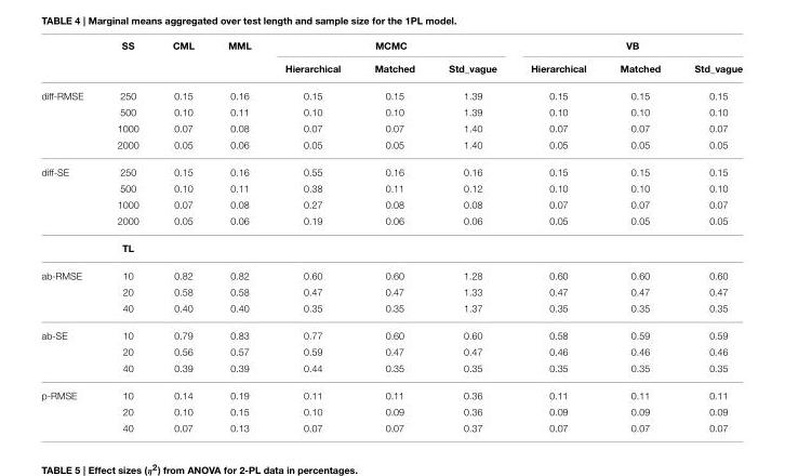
<table><thead><tr><td rowspan="2"></td><td rowspan="2">SS</td><td rowspan="2">CML</td><td rowspan="2">MML</td><td colspan="3">MCMC</td><td colspan="3">VB</td></tr><tr><td>Hierarchical</td><td>Matched</td><td>Std_vague</td><td>Hierarchical</td><td>Matched</td><td>Std_vague</td></tr></thead><tbody><tr><td rowspan="4">diff-RMSE</td><td>250</td><td>0.15</td><td>0.16</td><td>0.15</td><td>0.15</td><td>1.39</td><td>0.15</td><td>0.15</td><td>0.15</td></tr><tr><td>500</td><td>0.10</td><td>0.11</td><td>0.10</td><td>0.10</td><td>1.39</td><td>0.10</td><td>0.10</td><td>0.10</td></tr><tr><td>1000</td><td>0.07</td><td>0.08</td><td>0.07</td><td>0.07</td><td>1.40</td><td>0.07</td><td>0.07</td><td>0.07</td></tr><tr><td>2000</td><td>0.05</td><td>0.06</td><td>0.05</td><td>0.05</td><td>1.40</td><td>0.05</td><td>0.05</td><td>0.05</td></tr><tr><td rowspan="5">diff-SE</td><td>250</td><td>0.15</td><td>0.16</td><td>0.55</td><td>0.16</td><td>0.16</td><td>0.15</td><td>0.15</td><td>0.15</td></tr><tr><td>500</td><td>0.10</td><td>0.11</td><td>0.38</td><td>0.11</td><td>0.12</td><td>0.10</td><td>0.10</td><td>0.10</td></tr><tr><td>1000</td><td>0.07</td><td>0.08</td><td>0.27</td><td>0.08</td><td>0.08</td><td>0.07</td><td>0.07</td><td>0.07</td></tr><tr><td>2000</td><td>0.05</td><td>0.06</td><td>0.19</td><td>0.06</td><td>0.06</td><td>0.05</td><td>0.05</td><td>0.05</td></tr><tr><td>TL</td><td></td><td></td><td></td><td></td><td></td><td></td><td></td><td></td></tr><tr><td rowspan="3">ab-RMSE</td><td>10</td><td>0.82</td><td>0.82</td><td>0.60</td><td>0.60</td><td>1.28</td><td>0.60</td><td>0.60</td><td>0.60</td></tr><tr><td>20</td><td>0.58</td><td>0.58</td><td>0.47</td><td>0.47</td><td>1.33</td><td>0.47</td><td>0.47</td><td>0.47</td></tr><tr><td>40</td><td>0.40</td><td>0.40</td><td>0.35</td><td>0.35</td><td>1.37</td><td>0.35</td><td>0.35</td><td>0.35</td></tr><tr><td rowspan="3">ab-SE</td><td>10</td><td>0.79</td><td>0.83</td><td>0.77</td><td>0.60</td><td>0.60</td><td>0.58</td><td>0.59</td><td>0.59</td></tr><tr><td>20</td><td>0.56</td><td>0.57</td><td>0.59</td><td>0.47</td><td>0.47</td><td>0.46</td><td>0.46</td><td>0.46</td></tr><tr><td>40</td><td>0.39</td><td>0.39</td><td>0.44</td><td>0.35</td><td>0.35</td><td>0.35</td><td>0.35</td><td>0.35</td></tr><tr><td rowspan="3">p-RMSE</td><td>10</td><td>0.14</td><td>0.19</td><td>0.11</td><td>0.11</td><td>0.36</td><td>0.11</td><td>0.11</td><td>0.11</td></tr><tr><td>20</td><td>0.10</td><td>0.15</td><td>0.10</td><td>0.09</td><td>0.36</td><td>0.09</td><td>0.09</td><td>0.09</td></tr><tr><td>40</td><td>0.07</td><td>0.13</td><td>0.07</td><td>0.07</td><td>0.37</td><td>0.07</td><td>0.07</td><td>0.07</td></tr></tbody></table>